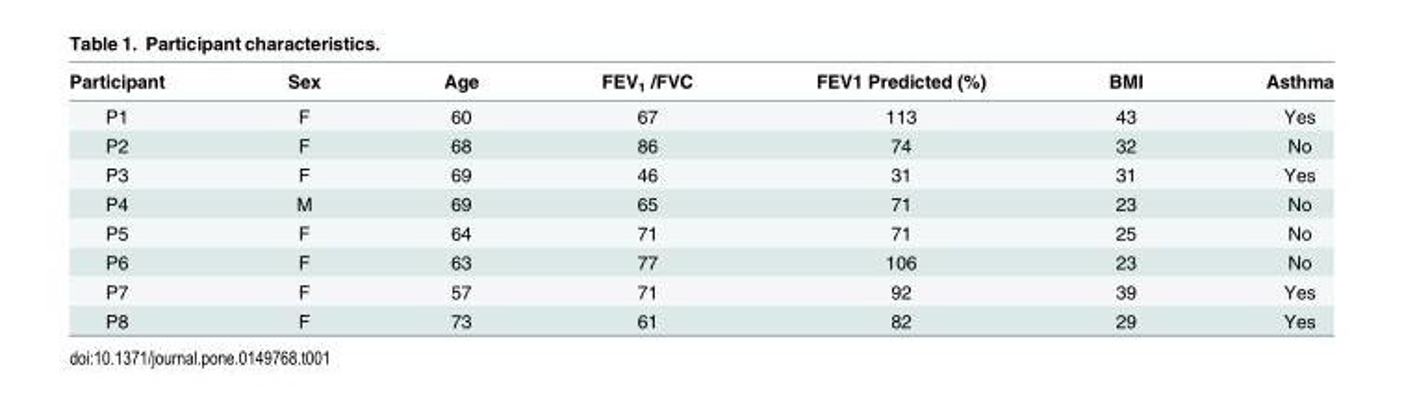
<table><thead><tr><td>Participant</td><td>Sex</td><td>Age</td><td>FEV<sub>1</sub> /FVC</td><td>FEV1 Predicted (%)</td><td>BMI</td><td>Asthma</td></tr></thead><tbody><tr><td>P1</td><td>F</td><td>60</td><td>67</td><td>113</td><td>43</td><td>Yes</td></tr><tr><td>P2</td><td>F</td><td>68</td><td>86</td><td>74</td><td>32</td><td>No</td></tr><tr><td>P3</td><td>F</td><td>69</td><td>46</td><td>31</td><td>31</td><td>Yes</td></tr><tr><td>P4</td><td>M</td><td>69</td><td>65</td><td>71</td><td>23</td><td>No</td></tr><tr><td>P5</td><td>F</td><td>64</td><td>71</td><td>71</td><td>25</td><td>No</td></tr><tr><td>P6</td><td>F</td><td>63</td><td>77</td><td>106</td><td>23</td><td>No</td></tr><tr><td>P7</td><td>F</td><td>57</td><td>71</td><td>92</td><td>39</td><td>Yes</td></tr><tr><td>P8</td><td>F</td><td>73</td><td>61</td><td>82</td><td>29</td><td>Yes</td></tr></tbody></table>